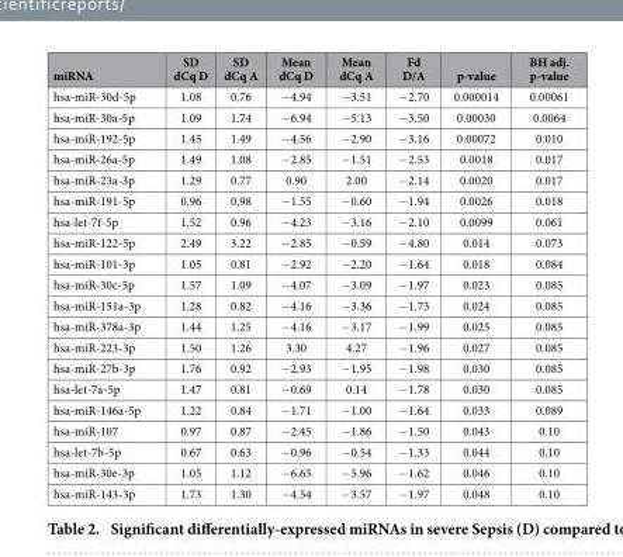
<table><thead><tr><td>miRNA</td><td>SD dCq D</td><td>SD dCq A</td><td>Mean dCq D</td><td>Mean dCq A</td><td>Fd D/A</td><td>p-value</td><td>BH adj. p-value</td></tr></thead><tbody><tr><td>hsa-miR-30d-5p</td><td>1.08</td><td>0.76</td><td>− 4.94</td><td>− 3.51</td><td>− 2.70</td><td>0.000014</td><td>0.00061</td></tr><tr><td>hsa-miR-30a-5p</td><td>1.09</td><td>1.74</td><td>− 6.94</td><td>− 5.13</td><td>− 3.50</td><td>0.00030</td><td>0.0064</td></tr><tr><td>hsa-miR-192-5p</td><td>1.45</td><td>1.49</td><td>− 4.56</td><td>− 2.90</td><td>− 3.16</td><td>0.00072</td><td>0.010</td></tr><tr><td>hsa-miR-26a-5p</td><td>1.49</td><td>1.08</td><td>− 2.85</td><td>− 1.51</td><td>− 2.53</td><td>0.0018</td><td>0.017</td></tr><tr><td>hsa-miR-23a-3p</td><td>1.29</td><td>0.77</td><td>0.90</td><td>2.00</td><td>− 2.14</td><td>0.0020</td><td>0.017</td></tr><tr><td>hsa-miR-191-5p</td><td>0.96</td><td>0.98</td><td>− 1.55</td><td>− 0.60</td><td>− 1.94</td><td>0.0026</td><td>0.018</td></tr><tr><td>hsa-let-7f-5p</td><td>1.52</td><td>0.96</td><td>− 4.23</td><td>− 3.16</td><td>− 2.10</td><td>0.0099</td><td>0.061</td></tr><tr><td>hsa-miR-122-5p</td><td>2.49</td><td>3.22</td><td>− 2.85</td><td>− 0.59</td><td>− 4.80</td><td>0.014</td><td>0.073</td></tr><tr><td>hsa-miR-101-3p</td><td>1.05</td><td>0.81</td><td>− 2.92</td><td>− 2.20</td><td>− 1.64</td><td>0.018</td><td>0.084</td></tr><tr><td>hsa-miR-30c-5p</td><td>1.57</td><td>1.09</td><td>− 4.07</td><td>− 3.09</td><td>− 1.97</td><td>0.023</td><td>0.085</td></tr><tr><td>hsa-miR-151a-3p</td><td>1.28</td><td>0.82</td><td>− 4.16</td><td>− 3.36</td><td>− 1.73</td><td>0.024</td><td>0.085</td></tr><tr><td>hsa-miR-378a-3p</td><td>1.44</td><td>1.25</td><td>− 4.16</td><td>− 3.17</td><td>− 1.99</td><td>0.025</td><td>0.085</td></tr><tr><td>hsa-miR-223-3p</td><td>1.50</td><td>1.26</td><td>3.30</td><td>4.27</td><td>− 1.96</td><td>0.027</td><td>0.085</td></tr><tr><td>hsa-miR-27b-3p</td><td>1.76</td><td>0.92</td><td>− 2.93</td><td>− 1.95</td><td>− 1.98</td><td>0.030</td><td>0.085</td></tr><tr><td>hsa-let-7a-5p</td><td>1.47</td><td>0.81</td><td>− 0.69</td><td>0.14</td><td>− 1.78</td><td>0.030</td><td>0.085</td></tr><tr><td>hsa-miR-146a-5p</td><td>1.22</td><td>0.84</td><td>− 1.71</td><td>− 1.00</td><td>− 1.64</td><td>0.033</td><td>0.089</td></tr><tr><td>hsa-miR-107</td><td>0.97</td><td>0.87</td><td>− 2.45</td><td>− 1.86</td><td>− 1.50</td><td>0.043</td><td>0.10</td></tr><tr><td>hsa-let-7b-5p</td><td>0.67</td><td>0.63</td><td>− 0.96</td><td>− 0.54</td><td>− 1.33</td><td>0.044</td><td>0.10</td></tr><tr><td>hsa-miR-30e-3p</td><td>1.05</td><td>1.12</td><td>− 6.65</td><td>− 5.96</td><td>− 1.62</td><td>0.046</td><td>0.10</td></tr><tr><td>hsa-miR-143-3p</td><td>1.73</td><td>1.30</td><td>− 4.54</td><td>− 3.57</td><td>− 1.97</td><td>0.048</td><td>0.10</td></tr></tbody></table>